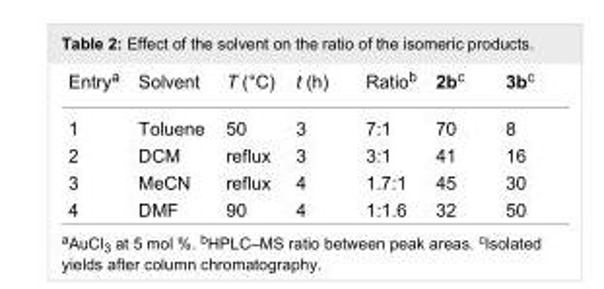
<table><tbody><tr><td>Entry<sup>a</sup></td><td>Solvent</td><td>T (°C)</td><td>t (h)</td><td>Ratio<sup>b</sup></td><td>2b<sup>c</sup></td><td>3b<sup>c</sup></td></tr><tr><td>1</td><td>Toluene</td><td>50</td><td>3</td><td>7:1</td><td>70</td><td>8</td></tr><tr><td>2</td><td>DCM</td><td>reflux</td><td>3</td><td>3:1</td><td>41</td><td>16</td></tr><tr><td>3</td><td>MeCN</td><td>reflux</td><td>4</td><td>1.7:1</td><td>45</td><td>30</td></tr><tr><td>4</td><td>DMF</td><td>90</td><td>4</td><td>1:1.6</td><td>32</td><td>50</td></tr></tbody></table>